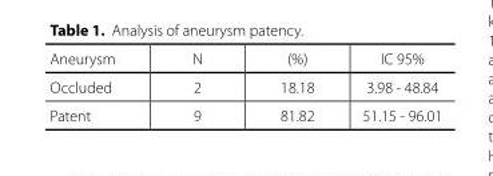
<table><thead><tr><td>Aneurysm</td><td>N</td><td>(%)</td><td>IC 95%</td></tr></thead><tbody><tr><td>Occluded</td><td>2</td><td>18.18</td><td>3.98 - 48.84</td></tr><tr><td>Patent</td><td>9</td><td>81.82</td><td>51.15 - 96.01</td></tr></tbody></table>